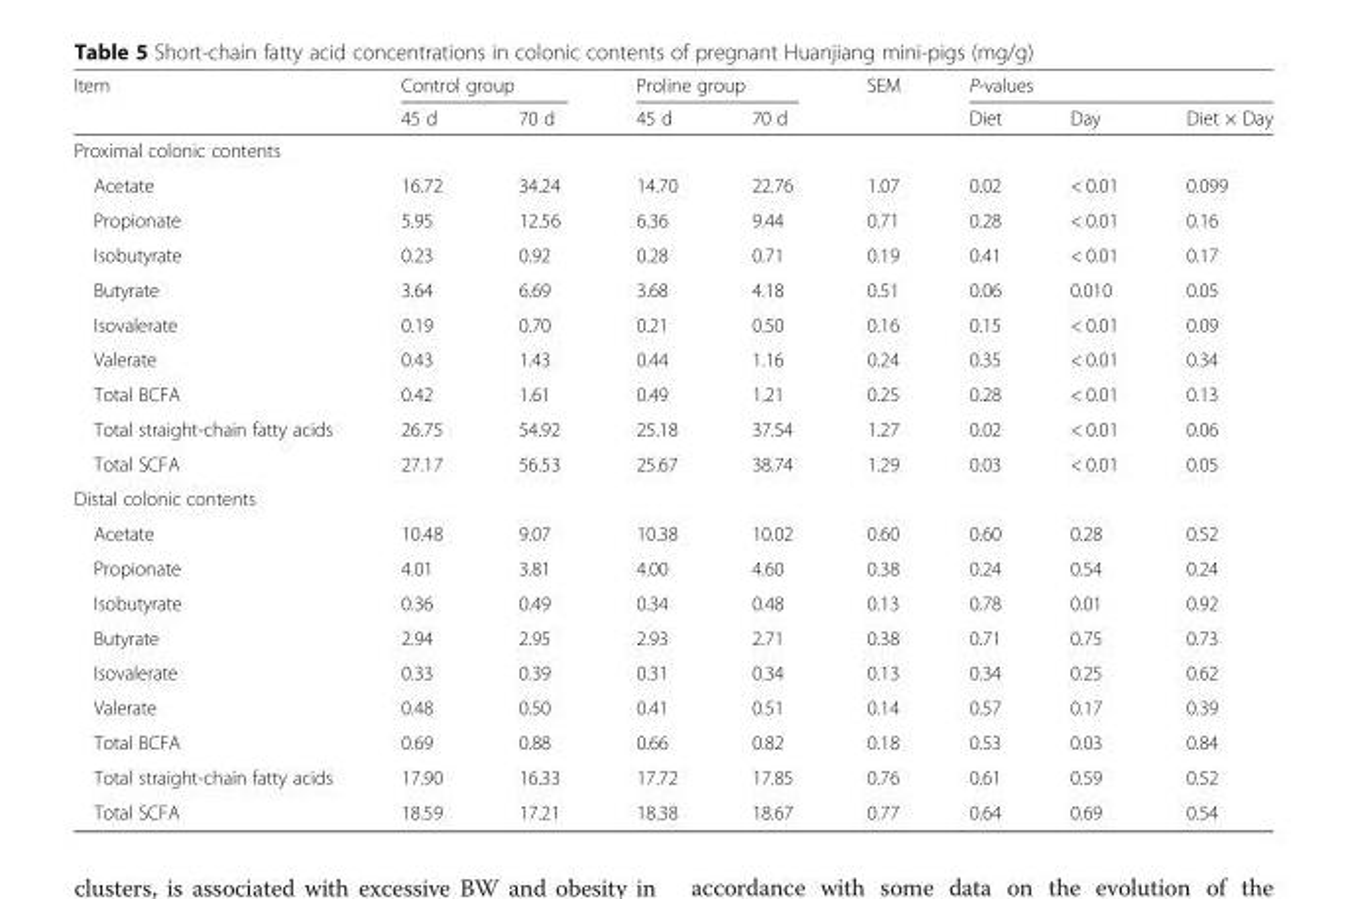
<table><thead><tr><td rowspan="2">Item</td><td colspan="2">Control group</td><td colspan="2">Proline group</td><td rowspan="2">SEM</td><td colspan="3">P-values</td></tr><tr><td>45 d</td><td>70 d</td><td>45 d</td><td>70 d</td><td>Diet</td><td>Day</td><td>Diet × Day</td></tr></thead><tbody><tr><td colspan="9">Proximal colonic contents</td></tr><tr><td>Acetate</td><td>16.72</td><td>34.24</td><td>14.70</td><td>22.76</td><td>1.07</td><td>0.02</td><td>&lt; 0.01</td><td>0.099</td></tr><tr><td>Propionate</td><td>5.95</td><td>12.56</td><td>6.36</td><td>9.44</td><td>0.71</td><td>0.28</td><td>&lt; 0.01</td><td>0.16</td></tr><tr><td>Isobutyrate</td><td>0.23</td><td>0.92</td><td>0.28</td><td>0.71</td><td>0.19</td><td>0.41</td><td>&lt; 0.01</td><td>0.17</td></tr><tr><td>Butyrate</td><td>3.64</td><td>6.69</td><td>3.68</td><td>4.18</td><td>0.51</td><td>0.06</td><td>0.010</td><td>0.05</td></tr><tr><td>Isovalerate</td><td>0.19</td><td>0.70</td><td>0.21</td><td>0.50</td><td>0.16</td><td>0.15</td><td>&lt; 0.01</td><td>0.09</td></tr><tr><td>Valerate</td><td>0.43</td><td>1.43</td><td>0.44</td><td>1.16</td><td>0.24</td><td>0.35</td><td>&lt; 0.01</td><td>0.34</td></tr><tr><td>Total BCFA</td><td>0.42</td><td>1.61</td><td>0.49</td><td>1.21</td><td>0.25</td><td>0.28</td><td>&lt; 0.01</td><td>0.13</td></tr><tr><td>Total straight-chain fatty acids</td><td>26.75</td><td>54.92</td><td>25.18</td><td>37.54</td><td>1.27</td><td>0.02</td><td>&lt; 0.01</td><td>0.06</td></tr><tr><td>Total SCFA</td><td>27.17</td><td>56.53</td><td>25.67</td><td>38.74</td><td>1.29</td><td>0.03</td><td>&lt; 0.01</td><td>0.05</td></tr><tr><td colspan="9">Distal colonic contents</td></tr><tr><td>Acetate</td><td>10.48</td><td>9.07</td><td>10.38</td><td>10.02</td><td>0.60</td><td>0.60</td><td>0.28</td><td>0.52</td></tr><tr><td>Propionate</td><td>4.01</td><td>3.81</td><td>4.00</td><td>4.60</td><td>0.38</td><td>0.24</td><td>0.54</td><td>0.24</td></tr><tr><td>Isobutyrate</td><td>0.36</td><td>0.49</td><td>0.34</td><td>0.48</td><td>0.13</td><td>0.78</td><td>0.01</td><td>0.92</td></tr><tr><td>Butyrate</td><td>2.94</td><td>2.95</td><td>2.93</td><td>2.71</td><td>0.38</td><td>0.71</td><td>0.75</td><td>0.73</td></tr><tr><td>Isovalerate</td><td>0.33</td><td>0.39</td><td>0.31</td><td>0.34</td><td>0.13</td><td>0.34</td><td>0.25</td><td>0.62</td></tr><tr><td>Valerate</td><td>0.48</td><td>0.50</td><td>0.41</td><td>0.51</td><td>0.14</td><td>0.57</td><td>0.17</td><td>0.39</td></tr><tr><td>Total BCFA</td><td>0.69</td><td>0.88</td><td>0.66</td><td>0.82</td><td>0.18</td><td>0.53</td><td>0.03</td><td>0.84</td></tr><tr><td>Total straight-chain fatty acids</td><td>17.90</td><td>16.33</td><td>17.72</td><td>17.85</td><td>0.76</td><td>0.61</td><td>0.59</td><td>0.52</td></tr><tr><td>Total SCFA</td><td>18.59</td><td>17.21</td><td>18.38</td><td>18.67</td><td>0.77</td><td>0.64</td><td>0.69</td><td>0.54</td></tr></tbody></table>